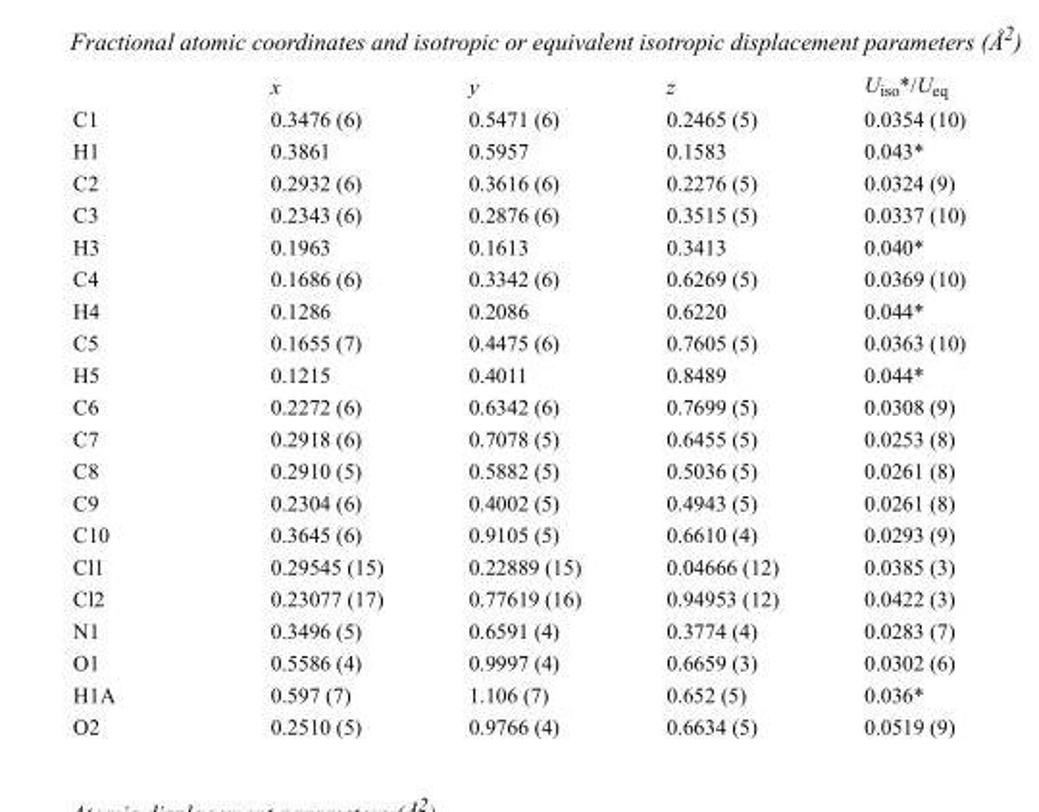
<table><thead><tr><td></td><td>x</td><td>y</td><td>z</td><td>U<sub>iso</sub>*/U<sub>eq</sub></td></tr></thead><tbody><tr><td>C1</td><td>0.3476 (6)</td><td>0.5471 (6)</td><td>0.2465 (5)</td><td>0.0354 (10)</td></tr><tr><td>H1</td><td>0.3861</td><td>0.5957</td><td>0.1583</td><td>0.043*</td></tr><tr><td>C2</td><td>0.2932 (6)</td><td>0.3616 (6)</td><td>0.2276 (5)</td><td>0.0324 (9)</td></tr><tr><td>C3</td><td>0.2343 (6)</td><td>0.2876 (6)</td><td>0.3515 (5)</td><td>0.0337 (10)</td></tr><tr><td>H3</td><td>0.1963</td><td>0.1613</td><td>0.3413</td><td>0.040*</td></tr><tr><td>C4</td><td>0.1686 (6)</td><td>0.3342 (6)</td><td>0.6269 (5)</td><td>0.0369 (10)</td></tr><tr><td>H4</td><td>0.1286</td><td>0.2086</td><td>0.6220</td><td>0.044*</td></tr><tr><td>C5</td><td>0.1655 (7)</td><td>0.4475 (6)</td><td>0.7605 (5)</td><td>0.0363 (10)</td></tr><tr><td>H5</td><td>0.1215</td><td>0.4011</td><td>0.8489</td><td>0.044*</td></tr><tr><td>C6</td><td>0.2272 (6)</td><td>0.6342 (6)</td><td>0.7699 (5)</td><td>0.0308 (9)</td></tr><tr><td>C7</td><td>0.2918 (6)</td><td>0.7078 (5)</td><td>0.6455 (5)</td><td>0.0253 (8)</td></tr><tr><td>C8</td><td>0.2910 (5)</td><td>0.5882 (5)</td><td>0.5036 (5)</td><td>0.0261 (8)</td></tr><tr><td>C9</td><td>0.2304 (6)</td><td>0.4002 (5)</td><td>0.4943 (5)</td><td>0.0261 (8)</td></tr><tr><td>C10</td><td>0.3645 (6)</td><td>0.9105 (5)</td><td>0.6610 (4)</td><td>0.0293 (9)</td></tr><tr><td>Cl1</td><td>0.29545 (15)</td><td>0.22889 (15)</td><td>0.04666 (12)</td><td>0.0385 (3)</td></tr><tr><td>Cl2</td><td>0.23077 (17)</td><td>0.77619 (16)</td><td>0.94953 (12)</td><td>0.0422 (3)</td></tr><tr><td>N1</td><td>0.3496 (5)</td><td>0.6591 (4)</td><td>0.3774 (4)</td><td>0.0283 (7)</td></tr><tr><td>O1</td><td>0.5586 (4)</td><td>0.9997 (4)</td><td>0.6659 (3)</td><td>0.0302 (6)</td></tr><tr><td>H1A</td><td>0.597 (7)</td><td>1.106 (7)</td><td>0.652 (5)</td><td>0.036*</td></tr><tr><td>O2</td><td>0.2510 (5)</td><td>0.9766 (4)</td><td>0.6634 (5)</td><td>0.0519 (9)</td></tr></tbody></table>